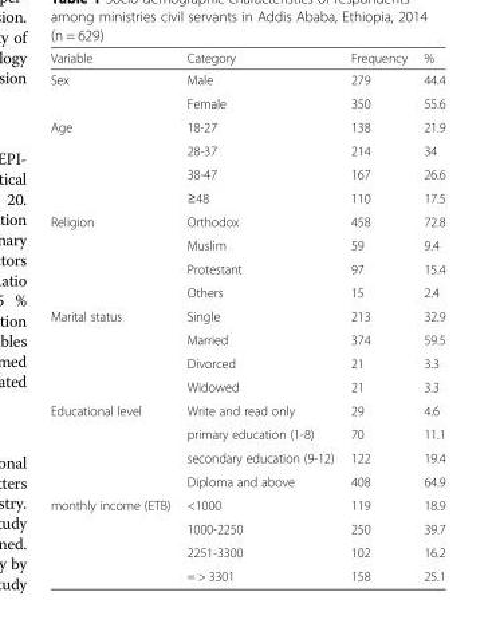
<table><thead><tr><td>Variable</td><td>Category</td><td>Frequency</td><td>%</td></tr></thead><tbody><tr><td rowspan="2">Sex</td><td>Male</td><td>279</td><td>44.4</td></tr><tr><td>Female</td><td>350</td><td>55.6</td></tr><tr><td rowspan="4">Age</td><td>18-27</td><td>138</td><td>21.9</td></tr><tr><td>28-37</td><td>214</td><td>34</td></tr><tr><td>38-47</td><td>167</td><td>26.6</td></tr><tr><td>≥48</td><td>110</td><td>17.5</td></tr><tr><td rowspan="4">Religion</td><td>Orthodox</td><td>458</td><td>72.8</td></tr><tr><td>Muslim</td><td>59</td><td>9.4</td></tr><tr><td>Protestant</td><td>97</td><td>15.4</td></tr><tr><td>Others</td><td>15</td><td>2.4</td></tr><tr><td rowspan="4">Marital status</td><td>Single</td><td>213</td><td>32.9</td></tr><tr><td>Married</td><td>374</td><td>59.5</td></tr><tr><td>Divorced</td><td>21</td><td>3.3</td></tr><tr><td>Widowed</td><td>21</td><td>3.3</td></tr><tr><td rowspan="4">Educational level</td><td>Write and read only</td><td>29</td><td>4.6</td></tr><tr><td>primary education (1-8)</td><td>70</td><td>11.1</td></tr><tr><td>secondary education (9-12)</td><td>122</td><td>19.4</td></tr><tr><td>Diploma and above</td><td>408</td><td>64.9</td></tr><tr><td rowspan="4">monthly income (ETB)</td><td>&lt;1000</td><td>119</td><td>18.9</td></tr><tr><td>1000-2250</td><td>250</td><td>39.7</td></tr><tr><td>2251-3300</td><td>102</td><td>16.2</td></tr><tr><td>= &gt; 3301</td><td>158</td><td>25.1</td></tr></tbody></table>